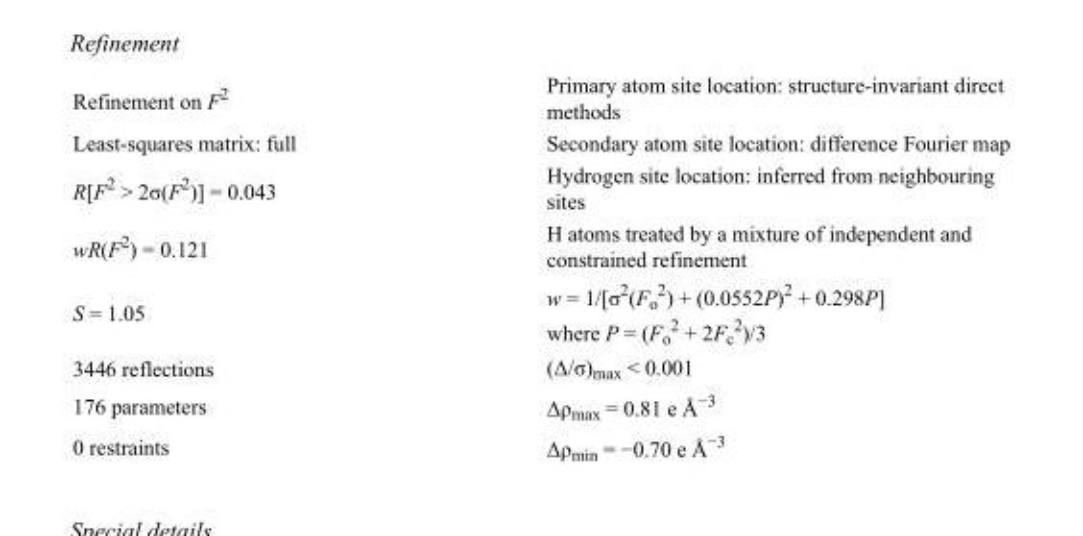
<table><tbody><tr><td>Refinement on F<sup>2</sup></td><td>Primary atom site location: structure-invariant direct methods</td></tr><tr><td>Least-squares matrix: full</td><td>Secondary atom site location: difference Fourier map</td></tr><tr><td>R[F<sup>2</sup> &gt; 2σ(F<sup>2</sup>)] = 0.043</td><td>Hydrogen site location: inferred from neighbouring sites</td></tr><tr><td>wR(F<sup>2</sup>) = 0.121</td><td>H atoms treated by a mixture of independent and constrained refinement</td></tr><tr><td>S = 1.05</td><td>w = 1/[σ<sup>2</sup>(F<sub>o</sub> <sup>2</sup>) + (0.0552P)<sup>2</sup> + 0.298P] where P = (F<sub>o</sub> <sup>2</sup> + 2F<sub>c</sub> <sup>2</sup>)/3</td></tr><tr><td>3446 reflections</td><td>(Δ/σ)<sub>max</sub> &lt; 0.001</td></tr><tr><td>176 parameters</td><td>Δρ<sub>max</sub> = 0.81 e Å<sup>−3</sup></td></tr><tr><td>0 restraints</td><td>Δρ<sub>min</sub> = −0.70 e Å<sup>−3</sup></td></tr></tbody></table>